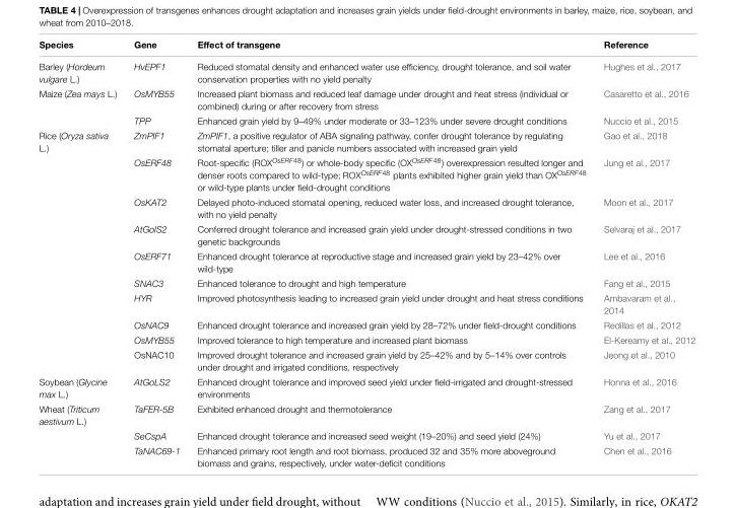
<table><thead><tr><td>Species</td><td>Gene</td><td>Effect of transgene</td><td>Reference</td></tr></thead><tbody><tr><td>Barley (Hordeum vulgare L.)</td><td>HvEPF1</td><td>Reduced stomatal density and enhanced water use efficiency, drought tolerance, and soil water conservation properties with no yield penalty</td><td>Hughes et al., 2017</td></tr><tr><td rowspan="2">Maize (Zea mays L.)</td><td>OsMYB55</td><td>Increased plant biomass and reduced leaf damage under drought and heat stress (individual or combined) during or after recovery from stress</td><td>Casaretto et al., 2016</td></tr><tr><td>TPP</td><td>Enhanced grain yield by 9–49% under moderate or 33–123% under severe drought conditions</td><td>Nuccio et al., 2015</td></tr><tr><td rowspan="10">Rice (Oryza sativa L.)</td><td>ZmPIF1</td><td>ZmPIF1, a positive regulator of ABA signaling pathway, confer drought tolerance by regulating stomatal aperture; tiller and panicle numbers associated with increased grain yield</td><td>Gao et al., 2018</td></tr><tr><td>OsERF48</td><td>Root-specific (ROX<sup>OsERF48</sup>) or whole-body specific (OX<sup>OsERF48</sup>) overexpression resulted longer and denser roots compared to wild-type; ROX<sup>OsERF48</sup> plants exhibited higher grain yield than OX<sup>OsERF48</sup> or wild-type plants under field-drought conditions</td><td>Jung et al., 2017</td></tr><tr><td>OsKAT2</td><td>Delayed photo-induced stomatal opening, reduced water loss, and increased drought tolerance, with no yield penalty</td><td>Moon et al., 2017</td></tr><tr><td>AtGolS2</td><td>Conferred drought tolerance and increased grain yield under drought-stressed conditions in two genetic backgrounds</td><td>Selvaraj et al., 2017</td></tr><tr><td>OsERF71</td><td>Enhanced drought tolerance at reproductive stage and increased grain yield by 23–42% over wild-type</td><td>Lee et al., 2016</td></tr><tr><td>SNAC3</td><td>Enhanced tolerance to drought and high temperature</td><td>Fang et al., 2015</td></tr><tr><td>HYR</td><td>Improved photosynthesis leading to increased grain yield under drought and heat stress conditions</td><td>Ambavaram et al., 2014</td></tr><tr><td>OsNAC9</td><td>Enhanced drought tolerance and increased grain yield by 28–72% under field-drought conditions</td><td>Redillas et al., 2012</td></tr><tr><td>OsMYB55</td><td>Improved tolerance to high temperature and increased plant biomass</td><td>El-Kereamy et al., 2012</td></tr><tr><td>OsNAC10</td><td>Improved drought tolerance and increased grain yield by 25–42% and by 5–14% over controls under drought and irrigated conditions, respectively</td><td>Jeong et al., 2010</td></tr><tr><td>Soybean (Glycine max L.)</td><td>AtGoLS2</td><td>Enhanced drought tolerance and improved seed yield under field-irrigated and drought-stressed environments</td><td>Honna et al., 2016</td></tr><tr><td rowspan="3">Wheat (Triticum aestivum L.)</td><td>TaFER-5B</td><td>Exhibited enhanced drought and thermotolerance</td><td>Zang et al., 2017</td></tr><tr><td>SeCspA</td><td>Enhanced drought tolerance and increased seed weight (19–20%) and seed yield (24%)</td><td>Yu et al., 2017</td></tr><tr><td>TaNAC69-1</td><td>Enhanced primary root length and root biomass, produced 32 and 35% more aboveground biomass and grains, respectively, under water-deficit conditions</td><td>Chen et al., 2016</td></tr></tbody></table>